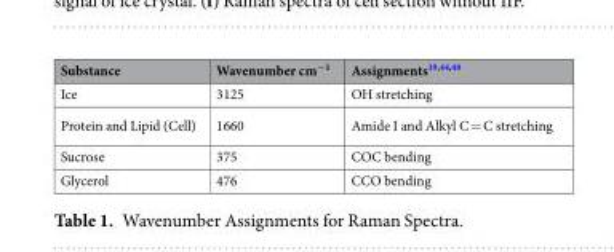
<table><thead><tr><td>Substance</td><td>Wavenumber cm<sup>−1</sup></td><td>Assignments<sup>19,44,48</sup></td></tr></thead><tbody><tr><td>Ice</td><td>3125</td><td>OH stretching</td></tr><tr><td>Protein and Lipid (Cell)</td><td>1660</td><td>Amide I and Alkyl C = C stretching</td></tr><tr><td>Sucrose</td><td>375</td><td>COC bending</td></tr><tr><td>Glycerol</td><td>476</td><td>CCO bending</td></tr></tbody></table>